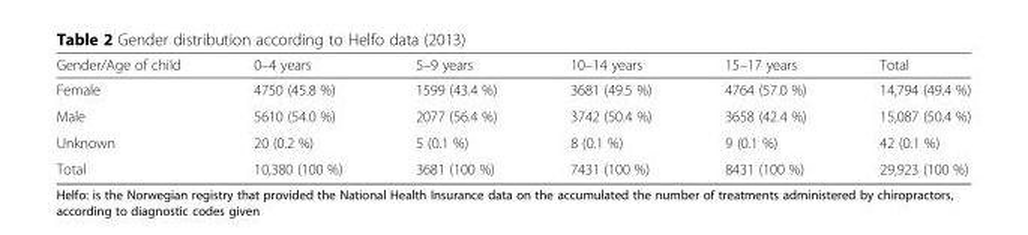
<table><thead><tr><td>Gender/Age of child</td><td>0–4 years</td><td>5–9 years</td><td>10–14 years</td><td>15–17 years</td><td>Total</td></tr></thead><tbody><tr><td>Female</td><td>4750 (45.8 %)</td><td>1599 (43.4 %)</td><td>3681 (49.5 %)</td><td>4764 (57.0 %)</td><td>14,794 (49.4 %)</td></tr><tr><td>Male</td><td>5610 (54.0 %)</td><td>2077 (56.4 %)</td><td>3742 (50.4 %)</td><td>3658 (42.4 %)</td><td>15,087 (50.4 %)</td></tr><tr><td>Unknown</td><td>20 (0.2 %)</td><td>5 (0.1 %)</td><td>8 (0.1 %)</td><td>9 (0.1 %)</td><td>42 (0.1 %)</td></tr><tr><td>Total</td><td>10,380 (100 %)</td><td>3681 (100 %)</td><td>7431 (100 %)</td><td>8431 (100 %)</td><td>29,923 (100 %)</td></tr></tbody></table>